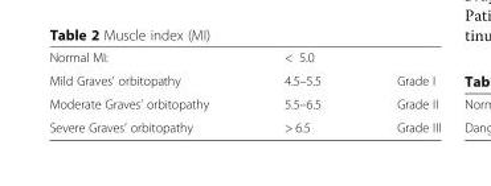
<table><tbody><tr><td>Normal MI:</td><td>&lt; 5.0</td><td></td></tr><tr><td>Mild Graves’ orbitopathy</td><td>4.5–5.5</td><td>Grade I</td></tr><tr><td>Moderate Graves’ orbitopathy</td><td>5.5–6.5</td><td>Grade II</td></tr><tr><td>Severe Graves’ orbitopathy</td><td>&gt; 6.5</td><td>Grade III</td></tr></tbody></table>